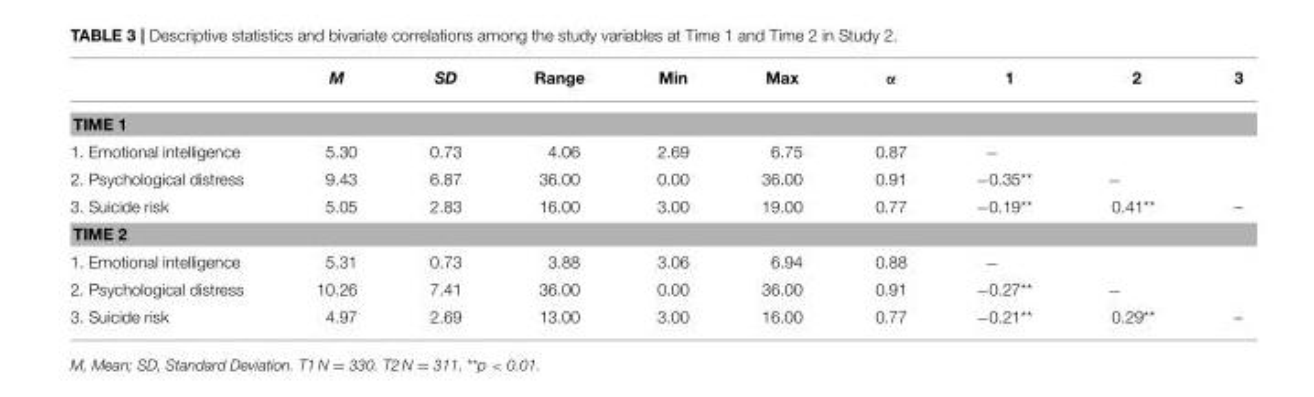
<table><thead><tr><td></td><td>M</td><td>SD</td><td>Range</td><td>Min</td><td>Max</td><td>α</td><td>1</td><td>2</td><td>3</td></tr></thead><tbody><tr><td colspan="10">TIME 1</td></tr><tr><td>1. Emotional intelligence</td><td>5.30</td><td>0.73</td><td>4.06</td><td>2.69</td><td>6.75</td><td>0.87</td><td>−</td><td></td><td></td></tr><tr><td>2. Psychological distress</td><td>9.43</td><td>6.87</td><td>36.00</td><td>0.00</td><td>36.00</td><td>0.91</td><td>−0.35**</td><td>−</td><td></td></tr><tr><td>3. Suicide risk</td><td>5.05</td><td>2.83</td><td>16.00</td><td>3.00</td><td>19.00</td><td>0.77</td><td>−0.19**</td><td>0.41**</td><td>–</td></tr><tr><td colspan="10">TIME 2</td></tr><tr><td>1. Emotional intelligence</td><td>5.31</td><td>0.73</td><td>3.88</td><td>3.06</td><td>6.94</td><td>0.88</td><td>−</td><td></td><td></td></tr><tr><td>2. Psychological distress</td><td>10.26</td><td>7.41</td><td>36.00</td><td>0.00</td><td>36.00</td><td>0.91</td><td>−0.27**</td><td>−</td><td></td></tr><tr><td>3. Suicide risk</td><td>4.97</td><td>2.69</td><td>13.00</td><td>3.00</td><td>16.00</td><td>0.77</td><td>−0.21**</td><td>0.29**</td><td>–</td></tr></tbody></table>